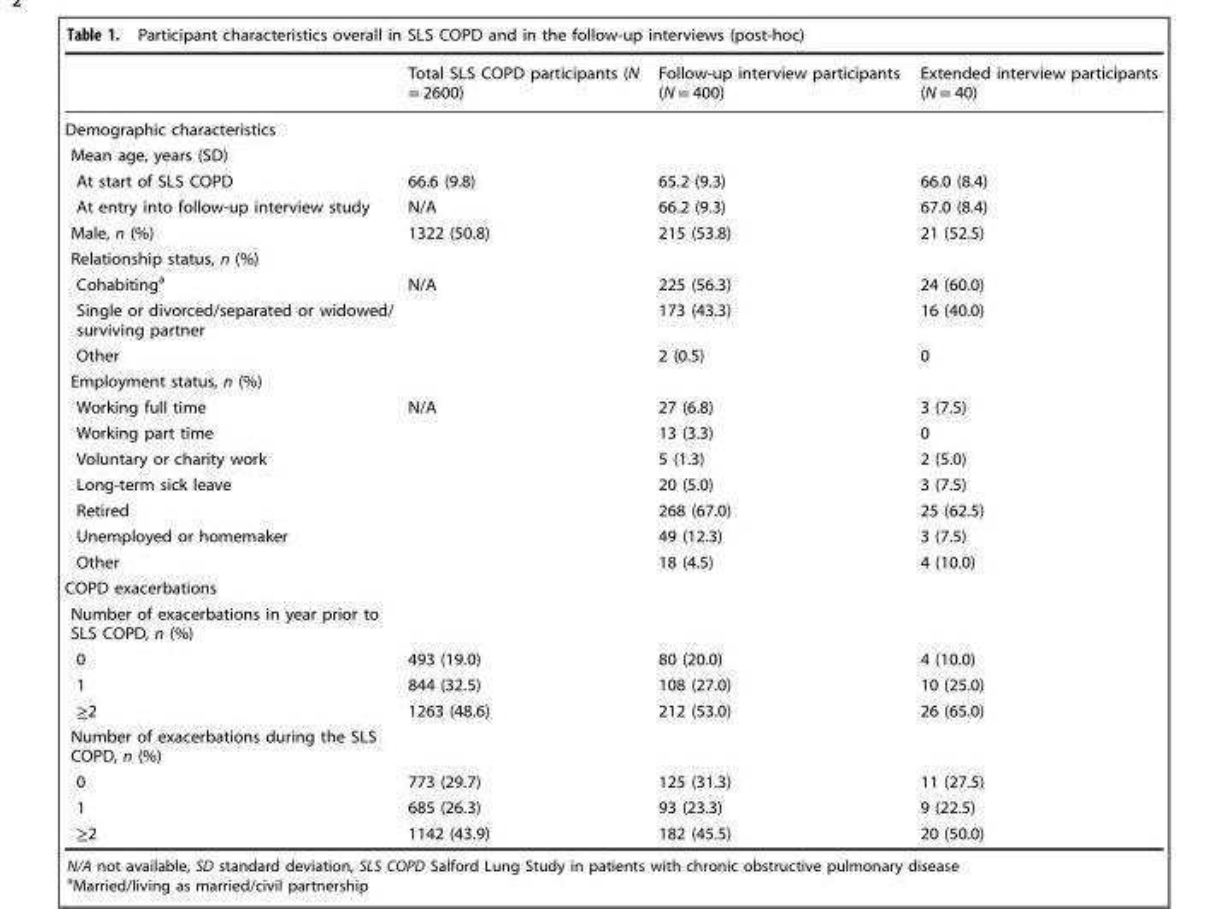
<table><thead><tr><td></td><td>Total SLS COPD participants (N = 2600)</td><td>Follow-up interview participants (N = 400)</td><td>Extended interview participants (N = 40)</td></tr></thead><tbody><tr><td colspan="4">Demographic characteristics</td></tr><tr><td colspan="4">Mean age, years (SD)</td></tr><tr><td>At start of SLS COPD</td><td>66.6 (9.8)</td><td>65.2 (9.3)</td><td>66.0 (8.4)</td></tr><tr><td>At entry into follow-up interview study</td><td>N/A</td><td>66.2 (9.3)</td><td>67.0 (8.4)</td></tr><tr><td>Male, n (%)</td><td>1322 (50.8)</td><td>215 (53.8)</td><td>21 (52.5)</td></tr><tr><td colspan="4">Relationship status, n (%)</td></tr><tr><td>Cohabiting<sup>a</sup></td><td>N/A</td><td>225 (56.3)</td><td>24 (60.0)</td></tr><tr><td>Single or divorced/separated or widowed/ surviving partner</td><td></td><td>173 (43.3)</td><td>16 (40.0)</td></tr><tr><td>Other</td><td></td><td>2 (0.5)</td><td>0</td></tr><tr><td colspan="4">Employment status, n (%)</td></tr><tr><td>Working full time</td><td>N/A</td><td>27 (6.8)</td><td>3 (7.5)</td></tr><tr><td>Working part time</td><td></td><td>13 (3.3)</td><td>0</td></tr><tr><td>Voluntary or charity work</td><td></td><td>5 (1.3)</td><td>2 (5.0)</td></tr><tr><td>Long-term sick leave</td><td></td><td>20 (5.0)</td><td>3 (7.5)</td></tr><tr><td>Retired</td><td></td><td>268 (67.0)</td><td>25 (62.5)</td></tr><tr><td>Unemployed or homemaker</td><td></td><td>49 (12.3)</td><td>3 (7.5)</td></tr><tr><td>Other</td><td></td><td>18 (4.5)</td><td>4 (10.0)</td></tr><tr><td colspan="4">COPD exacerbations</td></tr><tr><td colspan="4">Number of exacerbations in year prior to SLS COPD, n (%)</td></tr><tr><td>0</td><td>493 (19.0)</td><td>80 (20.0)</td><td>4 (10.0)</td></tr><tr><td>1</td><td>844 (32.5)</td><td>108 (27.0)</td><td>10 (25.0)</td></tr><tr><td>≥2</td><td>1263 (48.6)</td><td>212 (53.0)</td><td>26 (65.0)</td></tr><tr><td colspan="4">Number of exacerbations during the SLS COPD, n (%)</td></tr><tr><td>0</td><td>773 (29.7)</td><td>125 (31.3)</td><td>11 (27.5)</td></tr><tr><td>1</td><td>685 (26.3)</td><td>93 (23.3)</td><td>9 (22.5)</td></tr><tr><td>≥2</td><td>1142 (43.9)</td><td>182 (45.5)</td><td>20 (50.0)</td></tr></tbody></table>